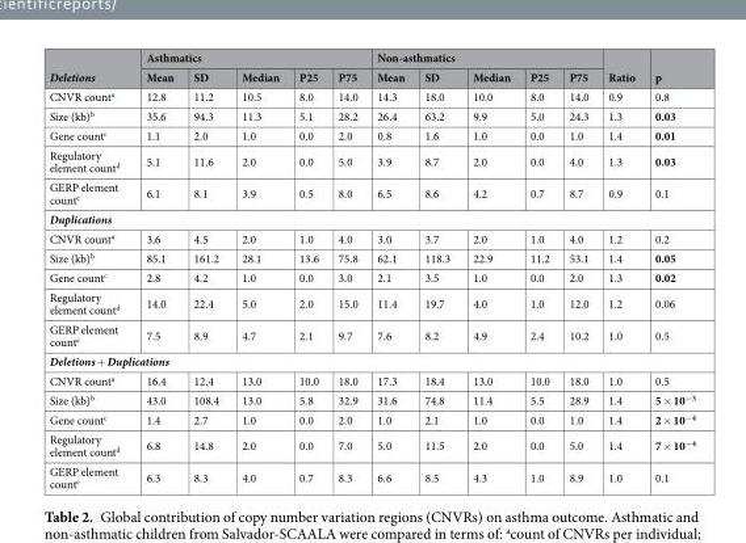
<table><thead><tr><td rowspan="2">Deletions</td><td colspan="5">Asthmatics</td><td colspan="5">Non-asthmatics</td><td rowspan="2">Ratio</td><td rowspan="2">p</td></tr><tr><td>Mean</td><td>SD</td><td>Median</td><td>P25</td><td>P75</td><td>Mean</td><td>SD</td><td>Median</td><td>P25</td><td>P75</td></tr></thead><tbody><tr><td>CNVR count<sup>a</sup></td><td>12.8</td><td>11.2</td><td>10.5</td><td>8.0</td><td>14.0</td><td>14.3</td><td>18.0</td><td>10.0</td><td>8.0</td><td>14.0</td><td>0.9</td><td>0.8</td></tr><tr><td>Size (kb)<sup>b</sup></td><td>35.6</td><td>94.3</td><td>11.3</td><td>5.1</td><td>28.2</td><td>26.4</td><td>63.2</td><td>9.9</td><td>5.0</td><td>24.3</td><td>1.3</td><td>0.03</td></tr><tr><td>Gene count<sup>c</sup></td><td>1.1</td><td>2.0</td><td>1.0</td><td>0.0</td><td>2.0</td><td>0.8</td><td>1.6</td><td>1.0</td><td>0.0</td><td>1.0</td><td>1.4</td><td>0.01</td></tr><tr><td>Regulatory element count<sup>d</sup></td><td>5.1</td><td>11.6</td><td>2.0</td><td>0.0</td><td>5.0</td><td>3.9</td><td>8.7</td><td>2.0</td><td>0.0</td><td>4.0</td><td>1.3</td><td>0.03</td></tr><tr><td>GERP element count<sup>e</sup></td><td>6.1</td><td>8.1</td><td>3.9</td><td>0.5</td><td>8.0</td><td>6.5</td><td>8.6</td><td>4.2</td><td>0.7</td><td>8.7</td><td>0.9</td><td>0.1</td></tr><tr><td colspan="13">Duplications</td></tr><tr><td>CNVR count<sup>a</sup></td><td>3.6</td><td>4.5</td><td>2.0</td><td>1.0</td><td>4.0</td><td>3.0</td><td>3.7</td><td>2.0</td><td>1.0</td><td>4.0</td><td>1.2</td><td>0.2</td></tr><tr><td>Size (kb)<sup>b</sup></td><td>85.1</td><td>161.2</td><td>28.1</td><td>13.6</td><td>75.8</td><td>62.1</td><td>118.3</td><td>22.9</td><td>11.2</td><td>53.1</td><td>1.4</td><td>0.05</td></tr><tr><td>Gene count<sup>c</sup></td><td>2.8</td><td>4.2</td><td>1.0</td><td>0.0</td><td>3.0</td><td>2.1</td><td>3.5</td><td>1.0</td><td>0.0</td><td>2.0</td><td>1.3</td><td>0.02</td></tr><tr><td>Regulatory element count<sup>d</sup></td><td>14.0</td><td>22.4</td><td>5.0</td><td>2.0</td><td>15.0</td><td>11.4</td><td>19.7</td><td>4.0</td><td>1.0</td><td>12.0</td><td>1.2</td><td>0.06</td></tr><tr><td>GERP element count<sup>e</sup></td><td>7.5</td><td>8.9</td><td>4.7</td><td>2.1</td><td>9.7</td><td>7.6</td><td>8.2</td><td>4.9</td><td>2.4</td><td>10.2</td><td>1.0</td><td>0.5</td></tr><tr><td colspan="13">Deletions + Duplications</td></tr><tr><td>CNVR count<sup>a</sup></td><td>16.4</td><td>12.4</td><td>13.0</td><td>10.0</td><td>18.0</td><td>17.3</td><td>18.4</td><td>13.0</td><td>10.0</td><td>18.0</td><td>1.0</td><td>0.5</td></tr><tr><td>Size (kb)<sup>b</sup></td><td>43.0</td><td>108.4</td><td>13.0</td><td>5.8</td><td>32.9</td><td>31.6</td><td>74.8</td><td>11.4</td><td>5.5</td><td>28.9</td><td>1.4</td><td>5 × 10<sup>−3</sup></td></tr><tr><td>Gene count<sup>c</sup></td><td>1.4</td><td>2.7</td><td>1.0</td><td>0.0</td><td>2.0</td><td>1.0</td><td>2.1</td><td>1.0</td><td>0.0</td><td>1.0</td><td>1.4</td><td>2 × 10<sup>−4</sup></td></tr><tr><td>Regulatory element count<sup>d</sup></td><td>6.8</td><td>14.8</td><td>2.0</td><td>0.0</td><td>7.0</td><td>5.0</td><td>11.5</td><td>2.0</td><td>0.0</td><td>5.0</td><td>1.4</td><td>7 × 10<sup>−4</sup></td></tr><tr><td>GERP element count<sup>e</sup></td><td>6.3</td><td>8.3</td><td>4.0</td><td>0.7</td><td>8.3</td><td>6.6</td><td>8.5</td><td>4.3</td><td>1.0</td><td>8.9</td><td>1.0</td><td>0.1</td></tr></tbody></table>